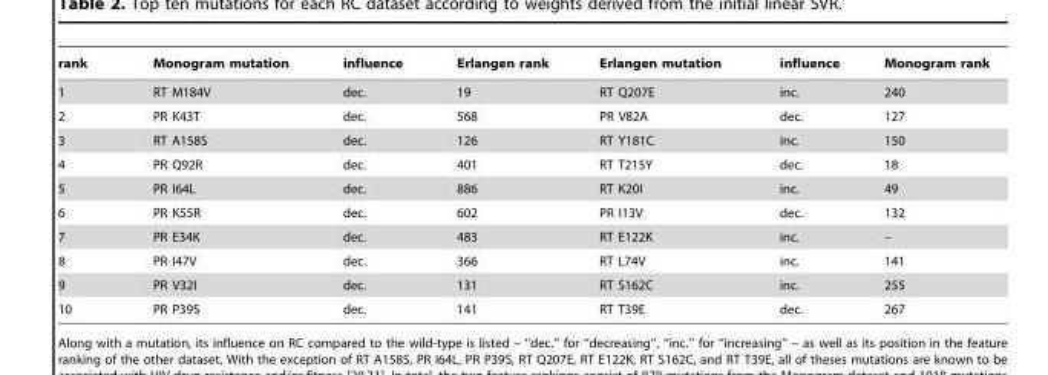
<table><thead><tr><td>rank</td><td>Monogram mutation</td><td>influence</td><td>Erlangen rank</td><td>Erlangen mutation</td><td>influence</td><td>Monogram rank</td></tr></thead><tbody><tr><td>1</td><td>RT M184V</td><td>dec.</td><td>19</td><td>RT Q207E</td><td>inc.</td><td>240</td></tr><tr><td>2</td><td>PR K43T</td><td>dec.</td><td>568</td><td>PR V82A</td><td>dec.</td><td>127</td></tr><tr><td>3</td><td>RT A158S</td><td>dec.</td><td>126</td><td>RT Y181C</td><td>inc.</td><td>150</td></tr><tr><td>4</td><td>PR Q92R</td><td>dec.</td><td>401</td><td>RT T215Y</td><td>dec.</td><td>18</td></tr><tr><td>5</td><td>PR I64L</td><td>dec.</td><td>886</td><td>RT K20I</td><td>inc.</td><td>49</td></tr><tr><td>6</td><td>PR K55R</td><td>dec.</td><td>602</td><td>PR I13V</td><td>dec.</td><td>132</td></tr><tr><td>7</td><td>PR E34K</td><td>dec.</td><td>483</td><td>RT E122K</td><td>inc.</td><td>–</td></tr><tr><td>8</td><td>PR I47V</td><td>dec.</td><td>366</td><td>RT L74V</td><td>inc.</td><td>141</td></tr><tr><td>9</td><td>PR V32I</td><td>dec.</td><td>131</td><td>RT S162C</td><td>inc.</td><td>255</td></tr><tr><td>10</td><td>PR P39S</td><td>dec.</td><td>141</td><td>RT T39E</td><td>dec.</td><td>267</td></tr></tbody></table>